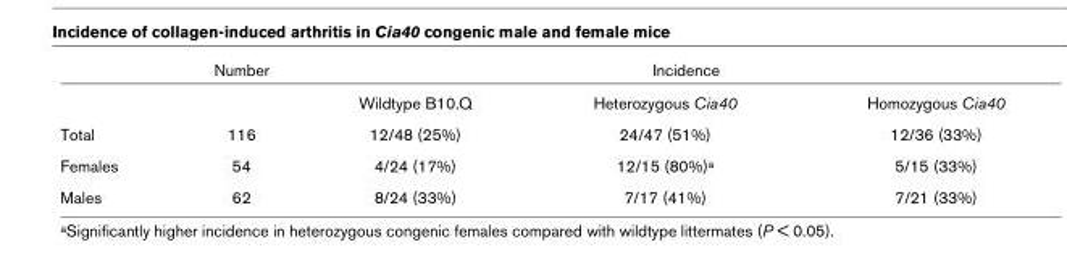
<table><thead><tr><td rowspan="2"></td><td rowspan="2">Number</td><td colspan="3">Incidence</td></tr><tr><td>Wildtype B10.Q</td><td>Heterozygous Cia40</td><td>Homozygous Cia40</td></tr></thead><tbody><tr><td>Total</td><td>116</td><td>12/48 (25%)</td><td>24/47 (51%)</td><td>12/36 (33%)</td></tr><tr><td>Females</td><td>54</td><td>4/24 (17%)</td><td>12/15 (80%)<sup>a</sup></td><td>5/15 (33%)</td></tr><tr><td>Males</td><td>62</td><td>8/24 (33%)</td><td>7/17 (41%)</td><td>7/21 (33%)</td></tr></tbody></table>